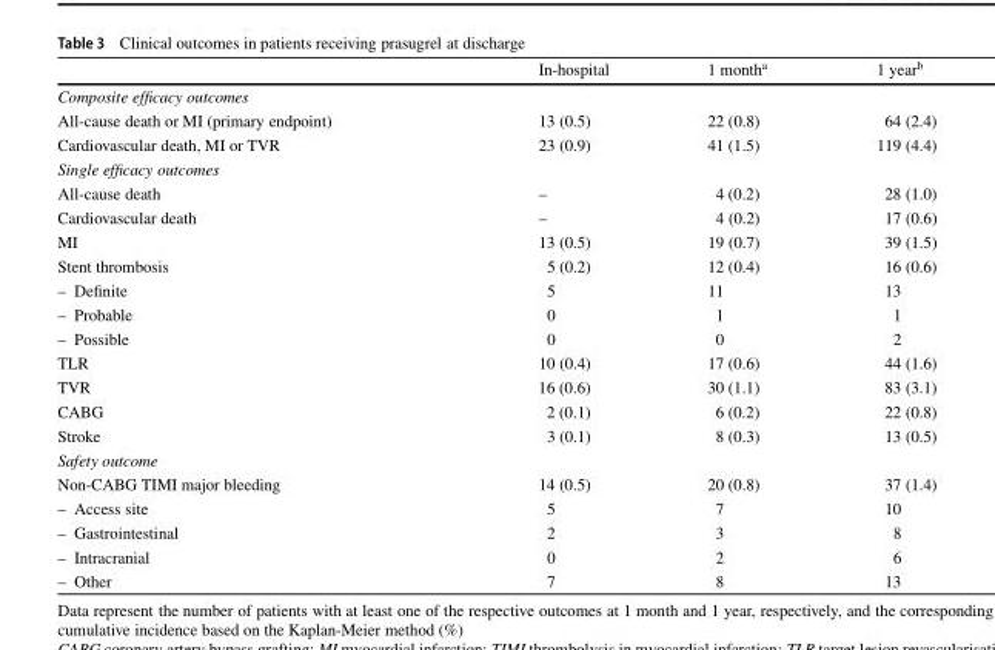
<table><thead><tr><td></td><td>In-hospital</td><td>1 month<sup>a</sup></td><td>1 year<sup>b</sup></td></tr></thead><tbody><tr><td colspan="4">Composite efficacy outcomes</td></tr><tr><td>All-cause death or MI (primary endpoint)</td><td>13 (0.5)</td><td>22 (0.8)</td><td>64 (2.4)</td></tr><tr><td>Cardiovascular death, MI or TVR</td><td>23 (0.9)</td><td>41 (1.5)</td><td>119 (4.4)</td></tr><tr><td colspan="4">Single efficacy outcomes</td></tr><tr><td>All-cause death</td><td>–</td><td>4 (0.2)</td><td>28 (1.0)</td></tr><tr><td>Cardiovascular death</td><td>–</td><td>4 (0.2)</td><td>17 (0.6)</td></tr><tr><td>MI</td><td>13 (0.5)</td><td>19 (0.7)</td><td>39 (1.5)</td></tr><tr><td>Stent thrombosis</td><td>5 (0.2)</td><td>12 (0.4)</td><td>16 (0.6)</td></tr><tr><td>– Definite</td><td>5</td><td>11</td><td>13</td></tr><tr><td>– Probable</td><td>0</td><td>1</td><td>1</td></tr><tr><td>– Possible</td><td>0</td><td>0</td><td>2</td></tr><tr><td>TLR</td><td>10 (0.4)</td><td>17 (0.6)</td><td>44 (1.6)</td></tr><tr><td>TVR</td><td>16 (0.6)</td><td>30 (1.1)</td><td>83 (3.1)</td></tr><tr><td>CABG</td><td>2 (0.1)</td><td>6 (0.2)</td><td>22 (0.8)</td></tr><tr><td>Stroke</td><td>3 (0.1)</td><td>8 (0.3)</td><td>13 (0.5)</td></tr><tr><td colspan="4">Safety outcome</td></tr><tr><td>Non-CABG TIMI major bleeding</td><td>14 (0.5)</td><td>20 (0.8)</td><td>37 (1.4)</td></tr><tr><td>– Access site</td><td>5</td><td>7</td><td>10</td></tr><tr><td>– Gastrointestinal</td><td>2</td><td>3</td><td>8</td></tr><tr><td>– Intracranial</td><td>0</td><td>2</td><td>6</td></tr><tr><td>– Other</td><td>7</td><td>8</td><td>13</td></tr></tbody></table>